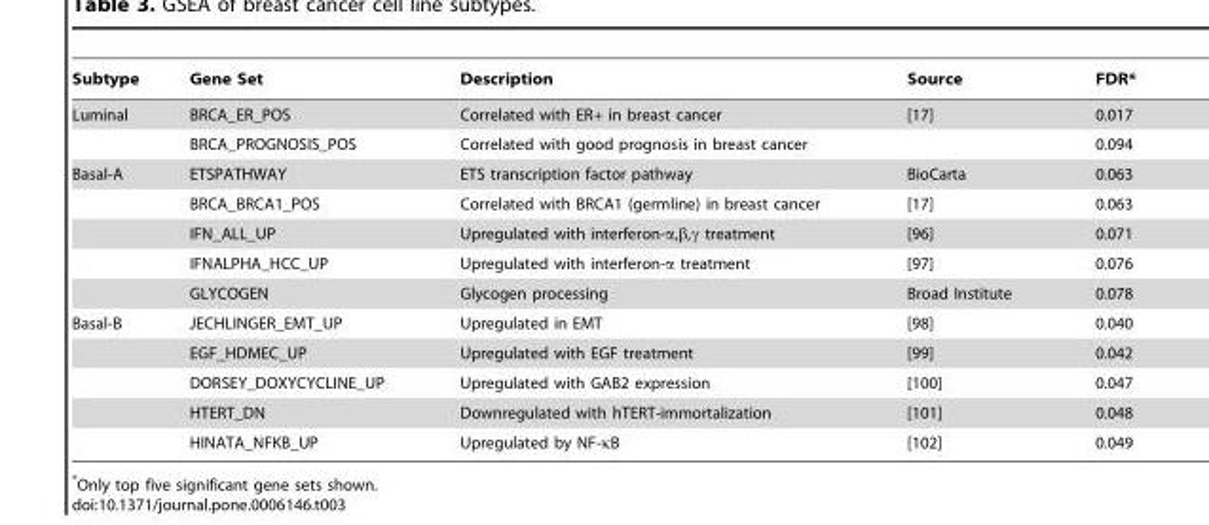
<table><thead><tr><td>Subtype</td><td>Gene Set</td><td>Description</td><td>Source</td><td>FDR*</td></tr></thead><tbody><tr><td rowspan="2">Luminal</td><td>BRCA_ER_POS</td><td>Correlated with ER+ in breast cancer</td><td>[17]</td><td>0.017</td></tr><tr><td>BRCA_PROGNOSIS_POS</td><td>Correlated with good prognosis in breast cancer</td><td></td><td>0.094</td></tr><tr><td rowspan="5">Basal-A</td><td>ETSPATHWAY</td><td>ETS transcription factor pathway</td><td>BioCarta</td><td>0.063</td></tr><tr><td>BRCA_BRCA1_POS</td><td>Correlated with BRCA1 (germline) in breast cancer</td><td>[17]</td><td>0.063</td></tr><tr><td>IFN_ALL_UP</td><td>Upregulated with interferon-α,β,γ treatment</td><td>[96]</td><td>0.071</td></tr><tr><td>IFNALPHA_HCC_UP</td><td>Upregulated with interferon-α treatment</td><td>[97]</td><td>0.076</td></tr><tr><td>GLYCOGEN</td><td>Glycogen processing</td><td>Broad Institute</td><td>0.078</td></tr><tr><td rowspan="5">Basal-B</td><td>JECHLINGER_EMT_UP</td><td>Upregulated in EMT</td><td>[98]</td><td>0.040</td></tr><tr><td>EGF_HDMEC_UP</td><td>Upregulated with EGF treatment</td><td>[99]</td><td>0.042</td></tr><tr><td>DORSEY_DOXYCYCLINE_UP</td><td>Upregulated with GAB2 expression</td><td>[100]</td><td>0.047</td></tr><tr><td>HTERT_DN</td><td>Downregulated with hTERT-immortalization</td><td>[101]</td><td>0.048</td></tr><tr><td>HINATA_NFKB_UP</td><td>Upregulated by NF-κB</td><td>[102]</td><td>0.049</td></tr></tbody></table>